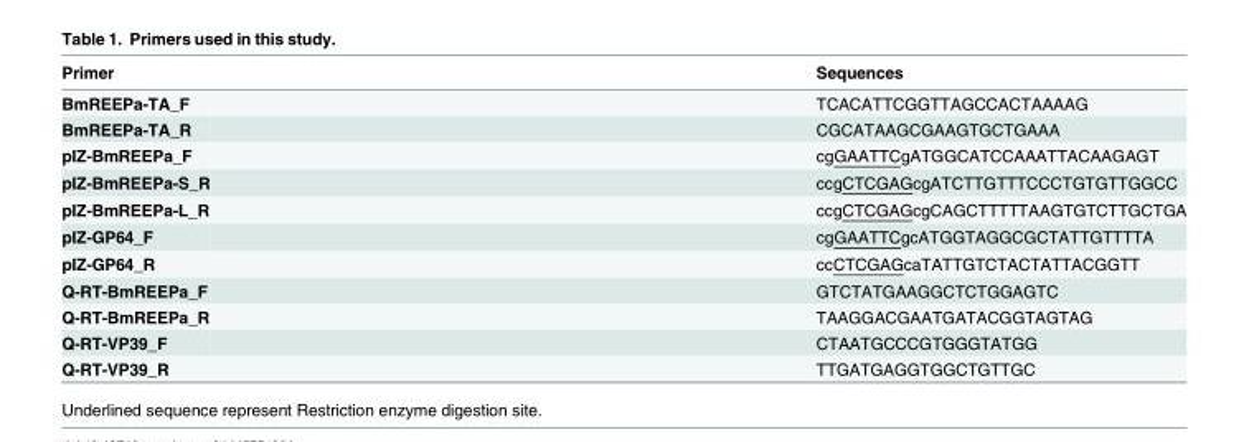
<table><thead><tr><td>Primer</td><td>Sequences</td></tr></thead><tbody><tr><td>BmREEPa-TA_F</td><td>TCACATTCGGTTAGCCACTAAAAG</td></tr><tr><td>BmREEPa-TA_R</td><td>CGCATAAGCGAAGTGCTGAAA</td></tr><tr><td>pIZ-BmREEPa_F</td><td>cgGAATTCgATGGCATCCAAATTACAAGAGT</td></tr><tr><td>pIZ-BmREEPa-S_R</td><td>ccgCTCGAGcgATCTTGTTTCCCTGTGTTGGCC</td></tr><tr><td>pIZ-BmREEPa-L_R</td><td>ccgCTCGAGcgCAGCTTTTTAAGTGTCTTGCTGA</td></tr><tr><td>pIZ-GP64_F</td><td>cgGAATTCgcATGGTAGGCGCTATTGTTTTA</td></tr><tr><td>pIZ-GP64_R</td><td>ccCTCGAGcaTATTGTCTACTATTACGGTT</td></tr><tr><td>Q-RT-BmREEPa_F</td><td>GTCTATGAAGGCTCTGGAGTC</td></tr><tr><td>Q-RT-BmREEPa_R</td><td>TAAGGACGAATGATACGGTAGTAG</td></tr><tr><td>Q-RT-VP39_F</td><td>CTAATGCCCGTGGGTATGG</td></tr><tr><td>Q-RT-VP39_R</td><td>TTGATGAGGTGGCTGTTGC</td></tr></tbody></table>